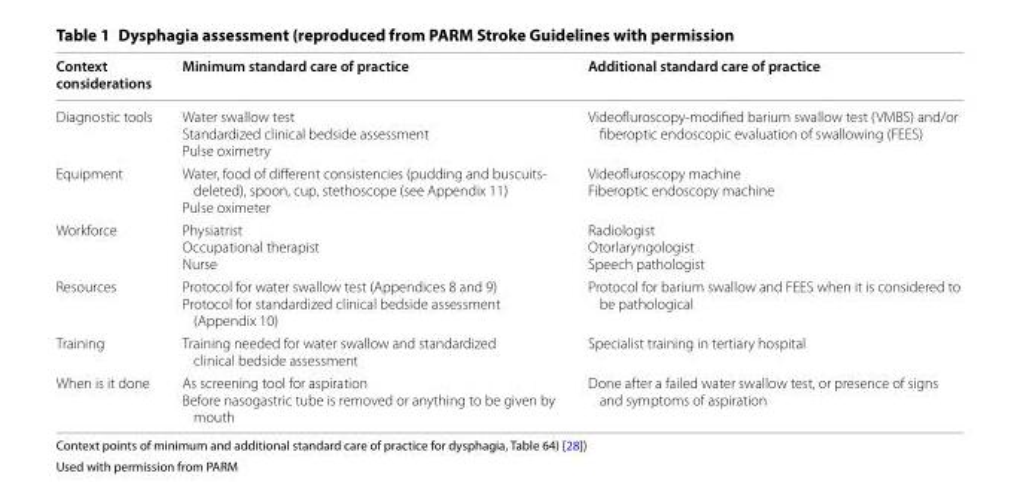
<table><thead><tr><td>Context considerations</td><td>Minimum standard care of practice</td><td>Additional standard care of practice</td></tr></thead><tbody><tr><td>Diagnostic tools</td><td>Water swallow test Standardized clinical bedside assessment Pulse oximetry</td><td>Videofluroscopy-modified barium swallow test (VMBS) and/or fiberoptic endoscopic evaluation of swallowing (FEES)</td></tr><tr><td>Equipment</td><td>Water, food of different consistencies (pudding and buscuits- deleted), spoon, cup, stethoscope (see Appendix 11) Pulse oximeter</td><td>Videofluroscopy machine Fiberoptic endoscopy machine</td></tr><tr><td>Workforce</td><td>Physiatrist Occupational therapist Nurse</td><td>Radiologist Otorlaryngologist Speech pathologist</td></tr><tr><td>Resources</td><td>Protocol for water swallow test (Appendices 8 and 9) Protocol for standardized clinical bedside assessment (Appendix 10)</td><td>Protocol for barium swallow and FEES when it is considered to be pathological</td></tr><tr><td>Training</td><td>Training needed for water swallow and standardized clinical bedside assessment</td><td>Specialist training in tertiary hospital</td></tr><tr><td>When is it done</td><td>As screening tool for aspiration Before nasogastric tube is removed or anything to be given by mouth</td><td>Done after a failed water swallow test, or presence of signs and symptoms of aspiration</td></tr></tbody></table>